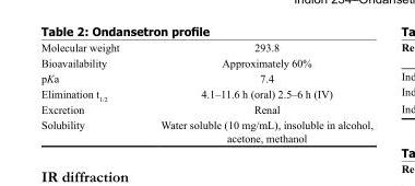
<table><tbody><tr><td>Molecular weight</td><td>293.8</td></tr><tr><td>Bioavailability</td><td>Approximately 60%</td></tr><tr><td>pKa</td><td>7.4</td></tr><tr><td>Elimination t1/2</td><td>4.1–11.6 h (oral) 2.5–6 h (IV)</td></tr><tr><td>Excretion</td><td>Renal</td></tr><tr><td>Solubility</td><td>Water soluble (10 mg/mL), insoluble in alcohol, acetone, methanol</td></tr></tbody></table>